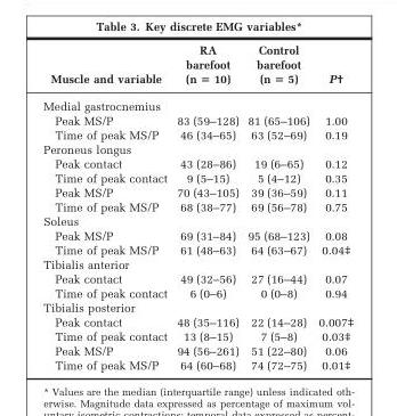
<table><thead><tr><td>Muscle and variable</td><td>RA barefoot (n = 10)</td><td>Control barefoot (n = 5)</td><td>P†</td></tr></thead><tbody><tr><td colspan="4">Medial gastrocnemius</td></tr><tr><td>Peak MS/P</td><td>83 (59–128)</td><td>81 (65–106)</td><td>1.00</td></tr><tr><td>Time of peak MS/P</td><td>46 (34–65)</td><td>63 (52–69)</td><td>0.19</td></tr><tr><td colspan="4">Peroneus longus</td></tr><tr><td>Peak contact</td><td>43 (28–86)</td><td>19 (6–65)</td><td>0.12</td></tr><tr><td>Time of peak contact</td><td>9 (5–15)</td><td>5 (4–12)</td><td>0.35</td></tr><tr><td>Peak MS/P</td><td>70 (43–105)</td><td>39 (36–59)</td><td>0.11</td></tr><tr><td>Time of peak MS/P</td><td>68 (38–77)</td><td>69 (56–78)</td><td>0.75</td></tr><tr><td colspan="4">Soleus</td></tr><tr><td>Peak MS/P</td><td>69 (31–84)</td><td>95 (68–123)</td><td>0.08</td></tr><tr><td>Time of peak MS/P</td><td>61 (48–63)</td><td>64 (63–67)</td><td>0.04‡</td></tr><tr><td colspan="4">Tibialis anterior</td></tr><tr><td>Peak contact</td><td>49 (32–56)</td><td>27 (16–44)</td><td>0.07</td></tr><tr><td>Time of peak contact</td><td>6 (0–6)</td><td>0 (0–8)</td><td>0.94</td></tr><tr><td colspan="4">Tibialis posterior</td></tr><tr><td>Peak contact</td><td>48 (35–116)</td><td>22 (14–28)</td><td>0.007‡</td></tr><tr><td>Time of peak contact</td><td>13 (8–15)</td><td>7 (5–8)</td><td>0.03‡</td></tr><tr><td>Peak MS/P</td><td>94 (56–261)</td><td>51 (22–80)</td><td>0.06</td></tr><tr><td>Time of peak MS/P</td><td>64 (60–68)</td><td>74 (72–75)</td><td>0.01‡</td></tr></tbody></table>